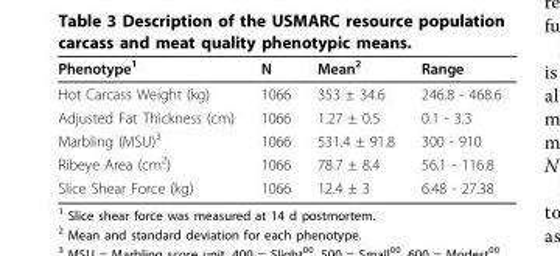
<table><thead><tr><td>Phenotype<sup>1</sup></td><td>N</td><td>Mean<sup>2</sup></td><td>Range</td></tr></thead><tbody><tr><td>Hot Carcass Weight (kg)</td><td>1066</td><td>353 ± 34.6</td><td>246.8 - 468.6</td></tr><tr><td>Adjusted Fat Thickness (cm)</td><td>1066</td><td>1.27 ± 0.5</td><td>0.1 - 3.3</td></tr><tr><td>Marbling (MSU)<sup>3</sup></td><td>1066</td><td>531.4 ± 91.8</td><td>300 - 910</td></tr><tr><td>Ribeye Area (cm<sup>2</sup>)</td><td>1066</td><td>78.7 ± 8.4</td><td>56.1 - 116.8</td></tr><tr><td>Slice Shear Force (kg)</td><td>1066</td><td>12.4 ± 3</td><td>6.48 - 27.38</td></tr></tbody></table>